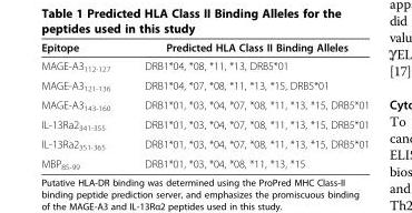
<table><thead><tr><td>Epitope</td><td>Predicted HLA Class II Binding Alleles</td></tr></thead><tbody><tr><td>MAGE-A3<sub>112-127</sub></td><td>DRB1*04, *08, *11, *13, DRB5*01</td></tr><tr><td>MAGE-A3<sub>121-136</sub></td><td>DRB1*04, *07, *08, *11, *13, *15, DRB5*01</td></tr><tr><td>MAGE-A3<sub>143-160</sub></td><td>DRB1*01, *03, *04, *07, *08, *11, *13, *15, DRB5*01</td></tr><tr><td>IL-13Ra2<sub>341-355</sub></td><td>DRB1*01, *03, *04, *07, *08, *11, *13, *15, DRB5*01</td></tr><tr><td>IL-13Ra2<sub>351-365</sub></td><td>DRB1*01, *03, *04, *07, *08, *11, *13, *15, DRB5*01</td></tr><tr><td>MBP<sub>85-99</sub></td><td>DRB1*01, *03, *04, *08, *11, *13, *15</td></tr></tbody></table>